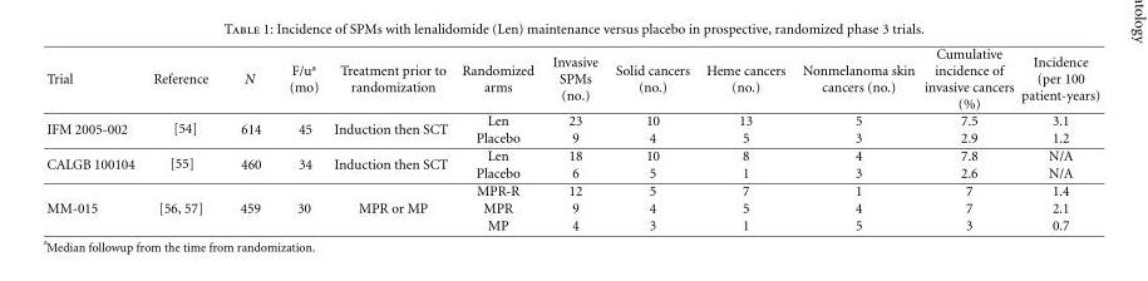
<table><thead><tr><td>Trial</td><td>Reference</td><td>N</td><td>F/u<sup>a</sup> (mo)</td><td>Treatment prior to randomization</td><td>Randomized arms</td><td>Invasive SPMs (no.)</td><td>Solid cancers (no.)</td><td>Heme cancers (no.)</td><td>Nonmelanoma skin cancers (no.)</td><td>Cumulative incidence of invasive cancers (%)</td><td>Incidence (per 100 patient-years)</td></tr></thead><tbody><tr><td rowspan="2">IFM 2005-002</td><td rowspan="2">[54]</td><td rowspan="2">614</td><td rowspan="2">45</td><td rowspan="2">Induction then SCT</td><td>Len</td><td>23</td><td>10</td><td>13</td><td>5</td><td>7.5</td><td>3.1</td></tr><tr><td>Placebo</td><td>9</td><td>4</td><td>5</td><td>3</td><td>2.9</td><td>1.2</td></tr><tr><td rowspan="3">CALGB 100104</td><td rowspan="2">[55]</td><td rowspan="2">460</td><td rowspan="2">34</td><td rowspan="2">Induction then SCT</td><td>Len</td><td>18</td><td>10</td><td>8</td><td>4</td><td>7.8</td><td>N/A</td></tr><tr><td>Placebo</td><td>6</td><td>5</td><td>1</td><td>3</td><td>2.6</td><td>N/A</td></tr><tr><td></td><td></td><td></td><td></td><td>MPR-R</td><td>12</td><td>5</td><td>7</td><td>1</td><td>7</td><td>1.4</td></tr><tr><td rowspan="2">MM-015</td><td>[56, 57]</td><td>459</td><td>30</td><td>MPR or MP</td><td>MPR</td><td>9</td><td>4</td><td>5</td><td>4</td><td>7</td><td>2.1</td></tr><tr><td></td><td></td><td></td><td></td><td>MP</td><td>4</td><td>3</td><td>1</td><td>5</td><td>3</td><td>0.7</td></tr></tbody></table>